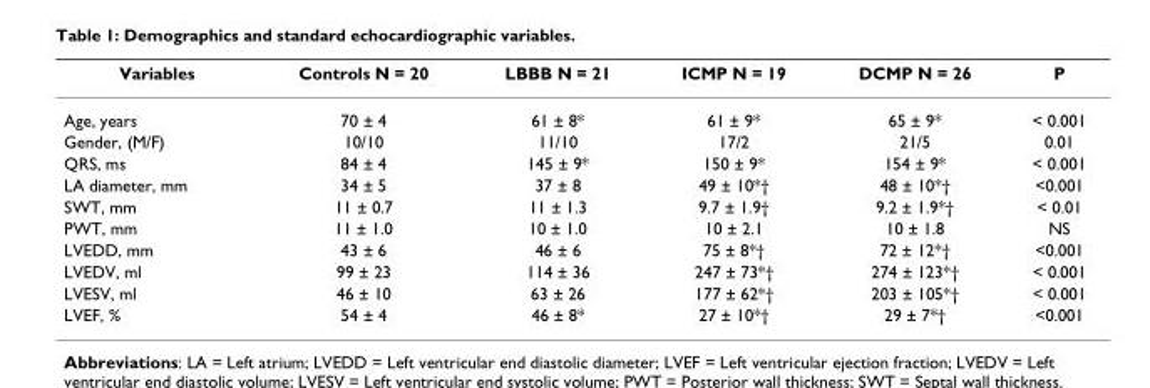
<table><thead><tr><td>Variables</td><td>Controls N = 20</td><td>LBBB N = 21</td><td>ICMP N = 19</td><td>DCMP N = 26</td><td>P</td></tr></thead><tbody><tr><td>Age, years</td><td>70 ± 4</td><td>61 ± 8*</td><td>61 ± 9*</td><td>65 ± 9*</td><td>&lt; 0.001</td></tr><tr><td>Gender, (M/F)</td><td>10/10</td><td>11/10</td><td>17/2</td><td>21/5</td><td>0.01</td></tr><tr><td>QRS, ms</td><td>84 ± 4</td><td>145 ± 9*</td><td>150 ± 9*</td><td>154 ± 9*</td><td>&lt; 0.001</td></tr><tr><td>LA diameter, mm</td><td>34 ± 5</td><td>37 ± 8</td><td>49 ± 10*†</td><td>48 ± 10*†</td><td>&lt;0.001</td></tr><tr><td>SWT, mm</td><td>11 ± 0.7</td><td>11 ± 1.3</td><td>9.7 ± 1.9†</td><td>9.2 ± 1.9*†</td><td>&lt; 0.01</td></tr><tr><td>PWT, mm</td><td>11 ± 1.0</td><td>10 ± 1.0</td><td>10 ± 2.1</td><td>10 ± 1.8</td><td>NS</td></tr><tr><td>LVEDD, mm</td><td>43 ± 6</td><td>46 ± 6</td><td>75 ± 8*†</td><td>72 ± 12*†</td><td>&lt;0.001</td></tr><tr><td>LVEDV, ml</td><td>99 ± 23</td><td>114 ± 36</td><td>247 ± 73*†</td><td>274 ± 123*†</td><td>&lt; 0.001</td></tr><tr><td>LVESV, ml</td><td>46 ± 10</td><td>63 ± 26</td><td>177 ± 62*†</td><td>203 ± 105*†</td><td>&lt; 0.001</td></tr><tr><td>LVEF, %</td><td>54 ± 4</td><td>46 ± 8*</td><td>27 ± 10*†</td><td>29 ± 7*†</td><td>&lt;0.001</td></tr></tbody></table>